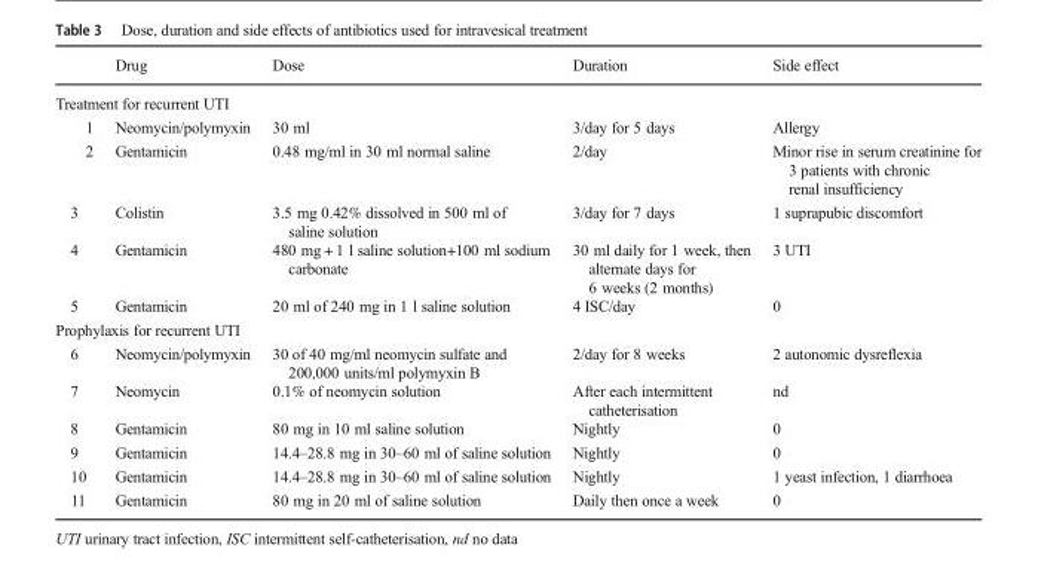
<table><thead><tr><td></td><td>Drug</td><td>Dose</td><td>Duration</td><td>Side effect</td></tr></thead><tbody><tr><td colspan="5">Treatment for recurrent UTI</td></tr><tr><td>1</td><td>Neomycin/polymyxin</td><td>30 ml</td><td>3/day for 5 days</td><td>Allergy</td></tr><tr><td>2</td><td>Gentamicin</td><td>0.48 mg/ml in 30 ml normal saline</td><td>2/day</td><td>Minor rise in serum creatinine for 3 patients with chronic renal insufficiency</td></tr><tr><td>3</td><td>Colistin</td><td>3.5 mg 0.42% dissolved in 500 ml of saline solution</td><td>3/day for 7 days</td><td>1 suprapubic discomfort</td></tr><tr><td>4</td><td>Gentamicin</td><td>480 mg + 1 l saline solution+100 ml sodium carbonate</td><td>30 ml daily for 1 week, then alternate days for 6 weeks (2 months)</td><td>3 UTI</td></tr><tr><td>5</td><td>Gentamicin</td><td>20 ml of 240 mg in 1 l saline solution</td><td>4 ISC/day</td><td>0</td></tr><tr><td colspan="5">Prophylaxis for recurrent UTI</td></tr><tr><td>6</td><td>Neomycin/polymyxin</td><td>30 of 40 mg/ml neomycin sulfate and 200,000 units/ml polymyxin B</td><td>2/day for 8 weeks</td><td>2 autonomic dysreflexia</td></tr><tr><td>7</td><td>Neomycin</td><td>0.1% of neomycin solution</td><td>After each intermittent catheterisation</td><td>nd</td></tr><tr><td>8</td><td>Gentamicin</td><td>80 mg in 10 ml saline solution</td><td>Nightly</td><td>0</td></tr><tr><td>9</td><td>Gentamicin</td><td>14.4–28.8 mg in 30–60 ml of saline solution</td><td>Nightly</td><td>0</td></tr><tr><td>10</td><td>Gentamicin</td><td>14.4–28.8 mg in 30–60 ml of saline solution</td><td>Nightly</td><td>1 yeast infection, 1 diarrhoea</td></tr><tr><td>11</td><td>Gentamicin</td><td>80 mg in 20 ml of saline solution</td><td>Daily then once a week</td><td>0</td></tr></tbody></table>